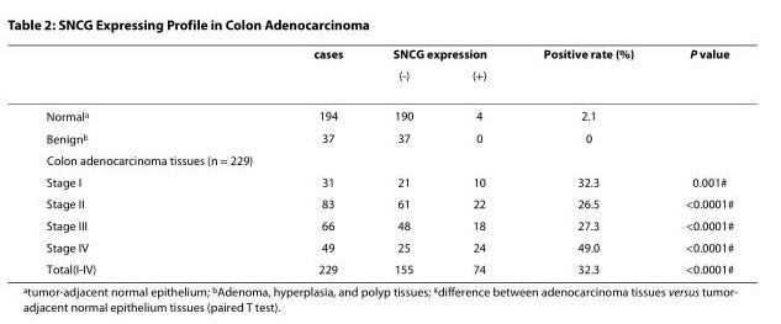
<table><thead><tr><td rowspan="2"></td><td rowspan="2">cases</td><td colspan="2">SNCG expression</td><td rowspan="2">Positive rate (%)</td><td rowspan="2">P value</td></tr><tr><td>(-)</td><td>(+)</td></tr></thead><tbody><tr><td>Normal<sup>a</sup></td><td>194</td><td>190</td><td>4</td><td>2.1</td><td></td></tr><tr><td>Benign<sup>b</sup></td><td>37</td><td>37</td><td>0</td><td>0</td><td></td></tr><tr><td colspan="6">Colon adenocarcinoma tissues (n = 229)</td></tr><tr><td>Stage I</td><td>31</td><td>21</td><td>10</td><td>32.3</td><td>0.001#</td></tr><tr><td>Stage II</td><td>83</td><td>61</td><td>22</td><td>26.5</td><td>&lt;0.0001#</td></tr><tr><td>Stage III</td><td>66</td><td>48</td><td>18</td><td>27.3</td><td>&lt;0.0001#</td></tr><tr><td>Stage IV</td><td>49</td><td>25</td><td>24</td><td>49.0</td><td>&lt;0.0001#</td></tr><tr><td>Total(I-IV)</td><td>229</td><td>155</td><td>74</td><td>32.3</td><td>&lt;0.0001#</td></tr></tbody></table>